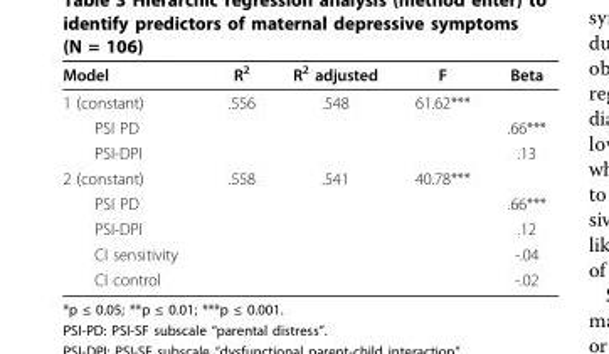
<table><thead><tr><td>Model</td><td>R<sup>2</sup></td><td>R<sup>2</sup> adjusted</td><td>F</td><td>Beta</td></tr></thead><tbody><tr><td>1 (constant)</td><td>.556</td><td>.548</td><td>61.62***</td><td></td></tr><tr><td>PSI PD</td><td></td><td></td><td></td><td>.66***</td></tr><tr><td>PSI-DPI</td><td></td><td></td><td></td><td>.13</td></tr><tr><td>2 (constant)</td><td>.558</td><td>.541</td><td>40.78***</td><td></td></tr><tr><td>PSI PD</td><td></td><td></td><td></td><td>.66***</td></tr><tr><td>PSI-DPI</td><td></td><td></td><td></td><td>.12</td></tr><tr><td>CI sensitivity</td><td></td><td></td><td></td><td>-.04</td></tr><tr><td>CI control</td><td></td><td></td><td></td><td>-.02</td></tr></tbody></table>